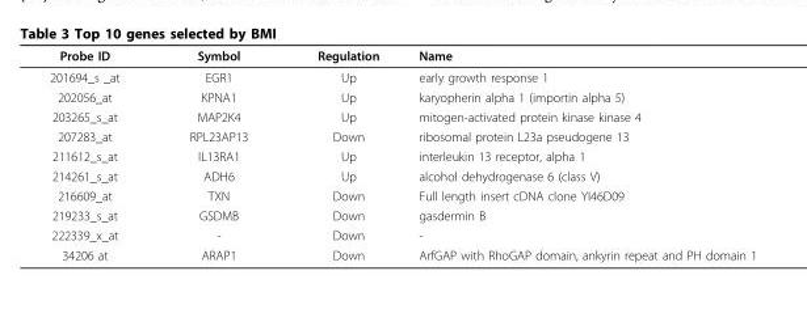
<table><thead><tr><td>Probe ID</td><td>Symbol</td><td>Regulation</td><td>Name</td></tr></thead><tbody><tr><td>201694_s _at</td><td>EGR1</td><td>Up</td><td>early growth response 1</td></tr><tr><td>202056_at</td><td>KPNA1</td><td>Up</td><td>karyopherin alpha 1 (importin alpha 5)</td></tr><tr><td>203265_s_at</td><td>MAP2K4</td><td>Up</td><td>mitogen-activated protein kinase kinase 4</td></tr><tr><td>207283_at</td><td>RPL23AP13</td><td>Down</td><td>ribosomal protein L23a pseudogene 13</td></tr><tr><td>211612_s_at</td><td>IL13RA1</td><td>Up</td><td>interleukin 13 receptor, alpha 1</td></tr><tr><td>214261_s_at</td><td>ADH6</td><td>Up</td><td>alcohol dehydrogenase 6 (class V)</td></tr><tr><td>216609_at</td><td>TXN</td><td>Down</td><td>Full length insert cDNA clone YI46D09</td></tr><tr><td>219233_s_at</td><td>GSDMB</td><td>Down</td><td>gasdermin B</td></tr><tr><td>222339_x_at</td><td>-</td><td>Down</td><td>-</td></tr><tr><td>34206 at</td><td>ARAP1</td><td>Down</td><td>ArfGAP with RhoGAP domain, ankyrin repeat and PH domain 1</td></tr></tbody></table>